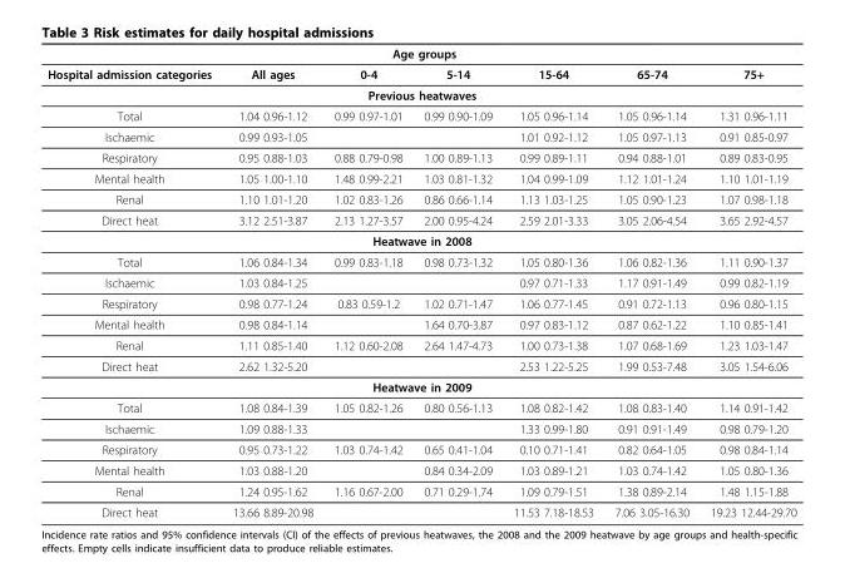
<table><thead><tr><td colspan="7">Age groups</td></tr><tr><td>Hospital admission categories</td><td>All ages</td><td>0-4</td><td>5-14</td><td>15-64</td><td>65-74</td><td>75+</td></tr></thead><tbody><tr><td colspan="7">Previous heatwaves</td></tr><tr><td>Total</td><td>1.04 0.96-1.12</td><td>0.99 0.97-1.01</td><td>0.99 0.90-1.09</td><td>1.05 0.96-1.14</td><td>1.05 0.96-1.14</td><td>1.31 0.96-1.11</td></tr><tr><td>Ischaemic</td><td>0.99 0.93-1.05</td><td></td><td></td><td>1.01 0.92-1.12</td><td>1.05 0.97-1.13</td><td>0.91 0.85-0.97</td></tr><tr><td>Respiratory</td><td>0.95 0.88-1.03</td><td>0.88 0.79-0.98</td><td>1.00 0.89-1.13</td><td>0.99 0.89-1.11</td><td>0.94 0.88-1.01</td><td>0.89 0.83-0.95</td></tr><tr><td>Mental health</td><td>1.05 1.00-1.10</td><td>1.48 0.99-2.21</td><td>1.03 0.81-1.32</td><td>1.04 0.99-1.09</td><td>1.12 1.01-1.24</td><td>1.10 1.01-1.19</td></tr><tr><td>Renal</td><td>1.10 1.01-1.20</td><td>1.02 0.83-1.26</td><td>0.86 0.66-1.14</td><td>1.13 1.03-1.25</td><td>1.05 0.90-1.23</td><td>1.07 0.98-1.18</td></tr><tr><td>Direct heat</td><td>3.12 2.51-3.87</td><td>2.13 1.27-3.57</td><td>2.00 0.95-4.24</td><td>2.59 2.01-3.33</td><td>3.05 2.06-4.54</td><td>3.65 2.92-4.57</td></tr><tr><td colspan="7">Heatwave in 2008</td></tr><tr><td>Total</td><td>1.06 0.84-1.34</td><td>0.99 0.83-1.18</td><td>0.98 0.73-1.32</td><td>1.05 0.80-1.36</td><td>1.06 0.82-1.36</td><td>1.11 0.90-1.37</td></tr><tr><td>Ischaemic</td><td>1.03 0.84-1.25</td><td></td><td></td><td>0.97 0.71-1.33</td><td>1.17 0.91-1.49</td><td>0.99 0.82-1.19</td></tr><tr><td>Respiratory</td><td>0.98 0.77-1.24</td><td>0.83 0.59-1.2</td><td>1.02 0.71-1.47</td><td>1.06 0.77-1.45</td><td>0.91 0.72-1.13</td><td>0.96 0.80-1.15</td></tr><tr><td>Mental health</td><td>0.98 0.84-1.14</td><td></td><td>1.64 0.70-3.87</td><td>0.97 0.83-1.12</td><td>0.87 0.62-1.22</td><td>1.10 0.85-1.41</td></tr><tr><td>Renal</td><td>1.11 0.85-1.40</td><td>1.12 0.60-2.08</td><td>2.64 1.47-4.73</td><td>1.00 0.73-1.38</td><td>1.07 0.68-1.69</td><td>1.23 1.03-1.47</td></tr><tr><td>Direct heat</td><td>2.62 1.32-5.20</td><td></td><td></td><td>2.53 1.22-5.25</td><td>1.99 0.53-7.48</td><td>3.05 1.54-6.06</td></tr><tr><td colspan="7">Heatwave in 2009</td></tr><tr><td>Total</td><td>1.08 0.84-1.39</td><td>1.05 0.82-1.26</td><td>0.80 0.56-1.13</td><td>1.08 0.82-1.42</td><td>1.08 0.83-1.40</td><td>1.14 0.91-1.42</td></tr><tr><td>Ischaemic</td><td>1.09 0.88-1.33</td><td></td><td></td><td>1.33 0.99-1.80</td><td>0.91 0.91-1.49</td><td>0.98 0.79-1.20</td></tr><tr><td>Respiratory</td><td>0.95 0.73-1.22</td><td>1.03 0.74-1.42</td><td>0.65 0.41-1.04</td><td>0.10 0.71-1.41</td><td>0.82 0.64-1.05</td><td>0.98 0.84-1.14</td></tr><tr><td>Mental health</td><td>1.03 0.88-1.20</td><td></td><td>0.84 0.34-2.09</td><td>1.03 0.89-1.21</td><td>1.03 0.74-1.42</td><td>1.05 0.80-1.36</td></tr><tr><td>Renal</td><td>1.24 0.95-1.62</td><td>1.16 0.67-2.00</td><td>0.71 0.29-1.74</td><td>1.09 0.79-1.51</td><td>1.38 0.89-2.14</td><td>1.48 1.15-1.88</td></tr><tr><td>Direct heat</td><td>13.66 8.89-20.98</td><td></td><td></td><td>11.53 7.18-18.53</td><td>7.06 3.05-16.30</td><td>19.23 12.44-29.70</td></tr></tbody></table>